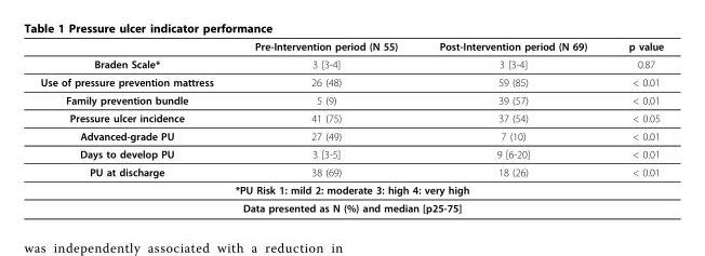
<table><thead><tr><td></td><td>Pre-Intervention period (N 55)</td><td>Post-Intervention period (N 69)</td><td>p value</td></tr></thead><tbody><tr><td>Braden Scale*</td><td>3 [3-4]</td><td>3 [3-4]</td><td>0.87</td></tr><tr><td>Use of pressure prevention mattress</td><td>26 (48)</td><td>59 (85)</td><td>&lt; 0.01</td></tr><tr><td>Family prevention bundle</td><td>5 (9)</td><td>39 (57)</td><td>&lt; 0.01</td></tr><tr><td>Pressure ulcer incidence</td><td>41 (75)</td><td>37 (54)</td><td>&lt; 0.05</td></tr><tr><td>Advanced-grade PU</td><td>27 (49)</td><td>7 (10)</td><td>&lt; 0.01</td></tr><tr><td>Days to develop PU</td><td>3 [3-5]</td><td>9 [6-20]</td><td>&lt; 0.01</td></tr><tr><td>PU at discharge</td><td>38 (69)</td><td>18 (26)</td><td>&lt; 0.01</td></tr><tr><td colspan="4">*PU Risk 1: mild 2: moderate 3: high 4: very high</td></tr><tr><td colspan="4">Data presented as N (%) and median [p25-75]</td></tr></tbody></table>